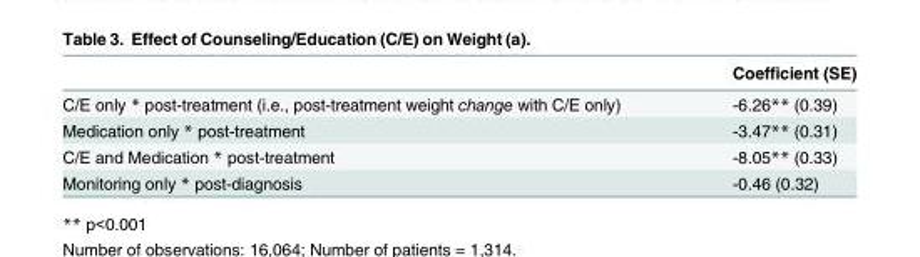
<table><thead><tr><td></td><td>Coefficient (SE)</td></tr></thead><tbody><tr><td>C/E only * post-treatment (i.e., post-treatment weight change with C/E only)</td><td>-6.26** (0.39)</td></tr><tr><td>Medication only * post-treatment</td><td>-3.47** (0.31)</td></tr><tr><td>C/E and Medication * post-treatment</td><td>-8.05** (0.33)</td></tr><tr><td>Monitoring only * post-diagnosis</td><td>-0.46 (0.32)</td></tr></tbody></table>